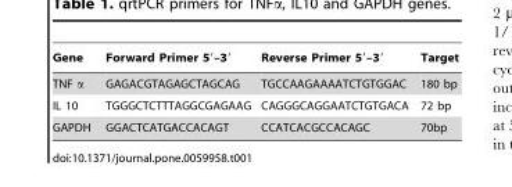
<table><thead><tr><td>Gene</td><td>Forward Primer 5′–3′</td><td>Reverse Primer 5′–3′</td><td>Target</td></tr></thead><tbody><tr><td>TNF α</td><td>GAGACGTAGAGCTAGCAG</td><td>TGCCAAGAAAATCTGTGGAC</td><td>180 bp</td></tr><tr><td>IL 10</td><td>TGGGCTCTTTAGGCGAGAAG</td><td>CAGGGCAGGAATCTGTGACA</td><td>72 bp</td></tr><tr><td>GAPDH</td><td>GGACTCATGACCACAGT</td><td>CCATCACGCCACAGC</td><td>70bp</td></tr></tbody></table>